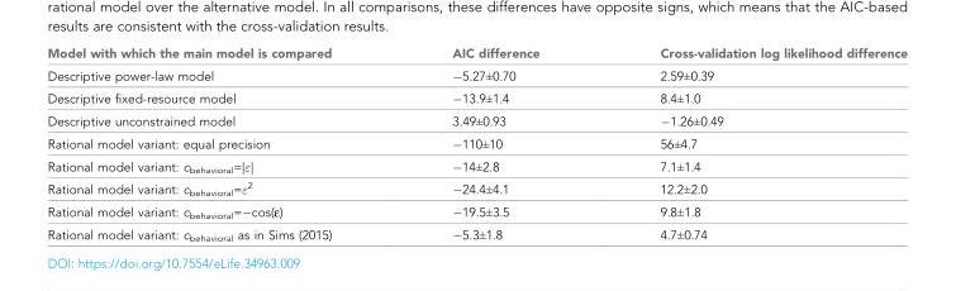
<table><thead><tr><td>Model with which the main model is compared</td><td>AIC difference</td><td>Cross-validation log likelihood difference</td></tr></thead><tbody><tr><td>Descriptive power-law model</td><td>−5.27±0.70</td><td>2.59±0.39</td></tr><tr><td>Descriptive fixed-resource model</td><td>−13.9±1.4</td><td>8.4±1.0</td></tr><tr><td>Descriptive unconstrained model</td><td>3.49±0.93</td><td>−1.26±0.49</td></tr><tr><td>Rational model variant: equal precision</td><td>−110±10</td><td>56±4.7</td></tr><tr><td>Rational model variant: cbehavioral=|&quot;|</td><td>−14±2.8</td><td>7.1±1.4</td></tr><tr><td>Rational model variant: cbehavioral=&quot;2</td><td>−24.4±4.1</td><td>12.2±2.0</td></tr><tr><td>Rational model variant: c<sub>behavioral</sub>=−cos(ε)</td><td>−19.5±3.5</td><td>9.8±1.8</td></tr><tr><td>Rational model variant: c<sub>behavioral</sub> as in Sims (2015)</td><td>−5.3±1.8</td><td>4.7±0.74</td></tr></tbody></table>